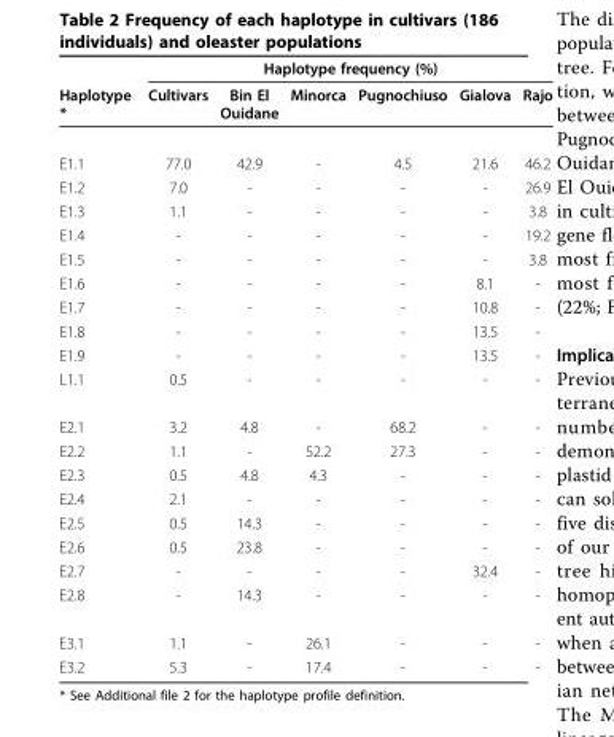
<table><thead><tr><td rowspan="2">Haplotype *</td><td colspan="6">Haplotype frequency (%)</td></tr><tr><td>Cultivars</td><td>Bin El Ouidane</td><td>Minorca</td><td>Pugnochiuso</td><td>Gialova</td><td>Rajo</td></tr></thead><tbody><tr><td>E1.1</td><td>77.0</td><td>42.9</td><td>-</td><td>4.5</td><td>21.6</td><td>46.2</td></tr><tr><td>E1.2</td><td>7.0</td><td>-</td><td>-</td><td>-</td><td>-</td><td>26.9</td></tr><tr><td>E1.3</td><td>1.1</td><td>-</td><td>-</td><td>-</td><td>-</td><td>3.8</td></tr><tr><td>E1.4</td><td>-</td><td>-</td><td>-</td><td>-</td><td>-</td><td>19.2</td></tr><tr><td>E1.5</td><td>-</td><td>-</td><td>-</td><td>-</td><td>-</td><td>3.8</td></tr><tr><td>E1.6</td><td>-</td><td>-</td><td>-</td><td>-</td><td>8.1</td><td>-</td></tr><tr><td>E1.7</td><td>-</td><td>-</td><td>-</td><td>-</td><td>10.8</td><td>-</td></tr><tr><td>E1.8</td><td>-</td><td>-</td><td>-</td><td>-</td><td>13.5</td><td>-</td></tr><tr><td>E1.9</td><td>-</td><td>-</td><td>-</td><td>-</td><td>13.5</td><td>-</td></tr><tr><td>L1.1</td><td>0.5</td><td>-</td><td>-</td><td>-</td><td>-</td><td>-</td></tr><tr><td>E2.1</td><td>3.2</td><td>4.8</td><td>-</td><td>68.2</td><td>-</td><td>-</td></tr><tr><td>E2.2</td><td>1.1</td><td>-</td><td>52.2</td><td>27.3</td><td>-</td><td>-</td></tr><tr><td>E2.3</td><td>0.5</td><td>4.8</td><td>4.3</td><td>-</td><td>-</td><td>-</td></tr><tr><td>E2.4</td><td>2.1</td><td>-</td><td>-</td><td>-</td><td>-</td><td>-</td></tr><tr><td>E2.5</td><td>0.5</td><td>14.3</td><td>-</td><td>-</td><td>-</td><td>-</td></tr><tr><td>E2.6</td><td>0.5</td><td>23.8</td><td>-</td><td>-</td><td>-</td><td>-</td></tr><tr><td>E2.7</td><td>-</td><td>-</td><td>-</td><td>-</td><td>32.4</td><td>-</td></tr><tr><td>E2.8</td><td>-</td><td>14.3</td><td>-</td><td>-</td><td>-</td><td>-</td></tr><tr><td>E3.1</td><td>1.1</td><td>-</td><td>26.1</td><td>-</td><td>-</td><td>-</td></tr><tr><td>E3.2</td><td>5.3</td><td>-</td><td>17.4</td><td>-</td><td>-</td><td>-</td></tr></tbody></table>